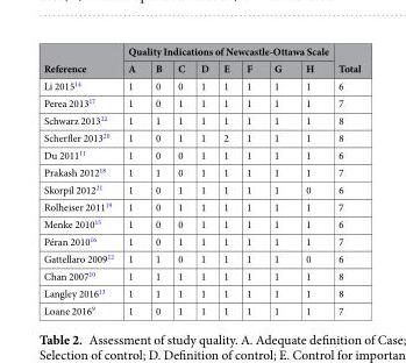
<table><thead><tr><td rowspan="2">Reference</td><td colspan="8">Quality Indications of Newcastle-Ottawa Scale</td><td rowspan="2">Total</td></tr><tr><td>A</td><td>B</td><td>C</td><td>D</td><td>E</td><td>F</td><td>G</td><td>H</td></tr></thead><tbody><tr><td>Li 2015<sup>14</sup></td><td>1</td><td>0</td><td>0</td><td>1</td><td>1</td><td>1</td><td>1</td><td>1</td><td>6</td></tr><tr><td>Perea 2013<sup>17</sup></td><td>1</td><td>0</td><td>1</td><td>1</td><td>1</td><td>1</td><td>1</td><td>1</td><td>7</td></tr><tr><td>Schwarz 2013<sup>22</sup></td><td>1</td><td>1</td><td>1</td><td>1</td><td>1</td><td>1</td><td>1</td><td>1</td><td>8</td></tr><tr><td>Scherfler 2013<sup>20</sup></td><td>1</td><td>0</td><td>1</td><td>1</td><td>2</td><td>1</td><td>1</td><td>1</td><td>8</td></tr><tr><td>Du 2011<sup>11</sup></td><td>1</td><td>0</td><td>0</td><td>1</td><td>1</td><td>1</td><td>1</td><td>1</td><td>6</td></tr><tr><td>Prakash 2012<sup>18</sup></td><td>1</td><td>1</td><td>0</td><td>1</td><td>1</td><td>1</td><td>1</td><td>1</td><td>7</td></tr><tr><td>Skorpil 2012<sup>21</sup></td><td>1</td><td>0</td><td>1</td><td>1</td><td>1</td><td>1</td><td>1</td><td>0</td><td>6</td></tr><tr><td>Rolheiser 2011<sup>19</sup></td><td>1</td><td>0</td><td>1</td><td>1</td><td>1</td><td>1</td><td>1</td><td>1</td><td>7</td></tr><tr><td>Menke 2010<sup>15</sup></td><td>1</td><td>0</td><td>0</td><td>1</td><td>1</td><td>1</td><td>1</td><td>1</td><td>6</td></tr><tr><td>Péran 2010<sup>16</sup></td><td>1</td><td>0</td><td>1</td><td>1</td><td>1</td><td>1</td><td>1</td><td>1</td><td>7</td></tr><tr><td>Gattellaro 2009<sup>12</sup></td><td>1</td><td>1</td><td>0</td><td>1</td><td>1</td><td>1</td><td>1</td><td>0</td><td>6</td></tr><tr><td>Chan 2007<sup>10</sup></td><td>1</td><td>1</td><td>1</td><td>1</td><td>1</td><td>1</td><td>1</td><td>1</td><td>8</td></tr><tr><td>Langley 2016<sup>13</sup></td><td>1</td><td>1</td><td>1</td><td>1</td><td>1</td><td>1</td><td>1</td><td>1</td><td>8</td></tr><tr><td>Loane 2016<sup>9</sup></td><td>1</td><td>0</td><td>1</td><td>1</td><td>1</td><td>1</td><td>1</td><td>1</td><td>7</td></tr></tbody></table>